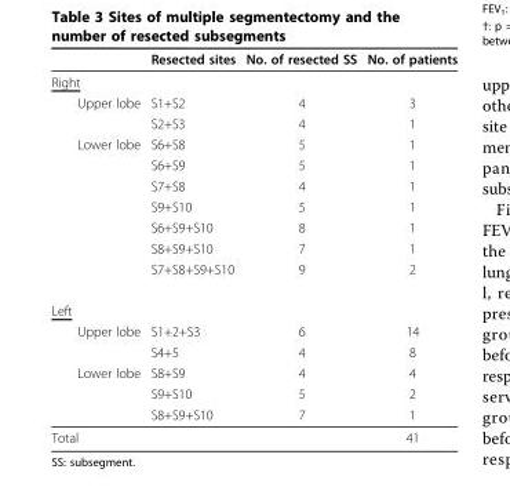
<table><thead><tr><td></td><td>Resected sites</td><td>No. of resected SS</td><td>No. of patients</td></tr></thead><tbody><tr><td colspan="4">Right</td></tr><tr><td rowspan="2">Upper lobe</td><td>S1+S2</td><td>4</td><td>3</td></tr><tr><td>S2+S3</td><td>4</td><td>1</td></tr><tr><td rowspan="7">Lower lobe</td><td>S6+S8</td><td>5</td><td>1</td></tr><tr><td>S6+S9</td><td>5</td><td>1</td></tr><tr><td>S7+S8</td><td>4</td><td>1</td></tr><tr><td>S9+S10</td><td>5</td><td>1</td></tr><tr><td>S6+S9+S10</td><td>8</td><td>1</td></tr><tr><td>S8+S9+S10</td><td>7</td><td>1</td></tr><tr><td>S7+S8+S9+S10</td><td>9</td><td>2</td></tr><tr><td colspan="4">Left</td></tr><tr><td rowspan="2">Upper lobe</td><td>S1+2+S3</td><td>6</td><td>14</td></tr><tr><td>S4+5</td><td>4</td><td>8</td></tr><tr><td rowspan="3">Lower lobe</td><td>S8+S9</td><td>4</td><td>4</td></tr><tr><td>S9+S10</td><td>5</td><td>2</td></tr><tr><td>S8+S9+S10</td><td>7</td><td>1</td></tr><tr><td>Total</td><td></td><td></td><td>41</td></tr></tbody></table>